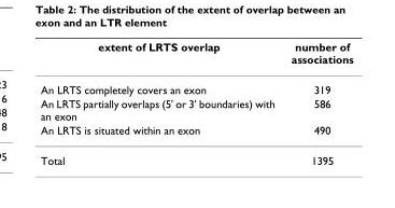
<table><thead><tr><td>extent of LRTS overlap</td><td>number of associations</td></tr></thead><tbody><tr><td>An LRTS completely covers an exon</td><td>319</td></tr><tr><td>An LRTS partially overlaps (5&#x27; or 3&#x27; boundaries) with an exon</td><td>586</td></tr><tr><td>An LRTS is situated within an exon</td><td>490</td></tr><tr><td>Total</td><td>1395</td></tr></tbody></table>